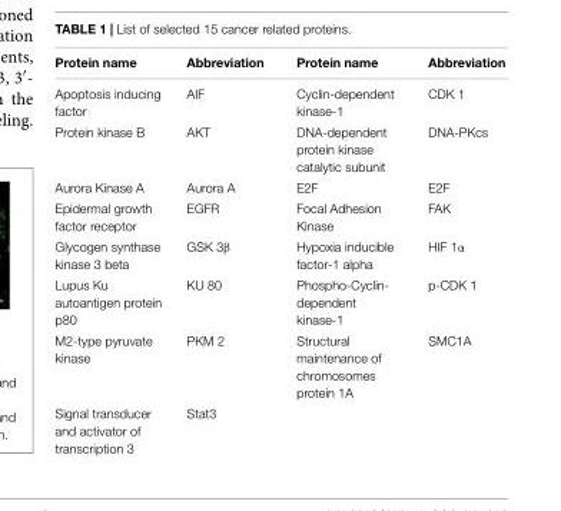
<table><thead><tr><td>Protein name</td><td>Abbreviation</td><td>Protein name</td><td>Abbreviation</td></tr></thead><tbody><tr><td>Apoptosis inducing factor</td><td>AIF</td><td>Cyclin-dependent kinase-1</td><td>CDK 1</td></tr><tr><td>Protein kinase B</td><td>AKT</td><td>DNA-dependent protein kinase catalytic subunit</td><td>DNA-PKcs</td></tr><tr><td>Aurora Kinase A</td><td>Aurora A</td><td>E2F</td><td>E2F</td></tr><tr><td>Epidermal growth factor receptor</td><td>EGFR</td><td>Focal Adhesion Kinase</td><td>FAK</td></tr><tr><td>Glycogen synthase kinase 3 beta</td><td>GSK 3β</td><td>Hypoxia inducible factor-1 alpha</td><td>HIF 1α</td></tr><tr><td>Lupus Ku autoantigen protein p80</td><td>KU 80</td><td>Phospho-Cyclin- dependent kinase-1</td><td>p-CDK 1</td></tr><tr><td>M2-type pyruvate kinase</td><td>PKM 2</td><td>Structural maintenance of chromosomes protein 1A</td><td>SMC1A</td></tr><tr><td>Signal transducer and activator of transcription 3</td><td>Stat3</td><td></td><td></td></tr></tbody></table>